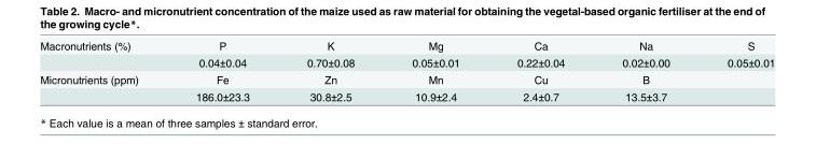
<table><tbody><tr><td rowspan="2">Macronutrients (%)</td><td>P</td><td>K</td><td>Mg</td><td>Ca</td><td>Na</td><td>S</td></tr><tr><td>0.04±0.04</td><td>0.70±0.08</td><td>0.05±0.01</td><td>0.22±0.04</td><td>0.02±0.00</td><td>0.05±0.01</td></tr><tr><td rowspan="2">Micronutrients (ppm)</td><td>Fe</td><td>Zn</td><td>Mn</td><td>Cu</td><td>B</td><td></td></tr><tr><td>186.0±23.3</td><td>30.8±2.5</td><td>10.9±2.4</td><td>2.4±0.7</td><td>13.5±3.7</td><td></td></tr></tbody></table>